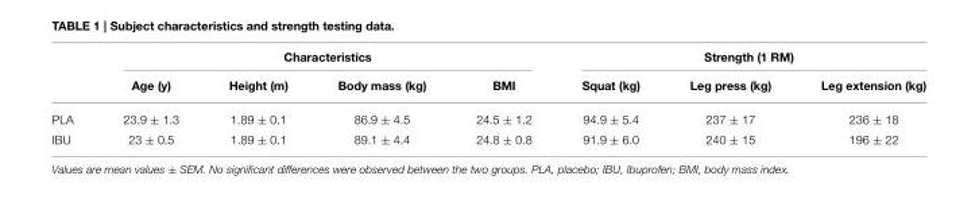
<table><thead><tr><td rowspan="2"></td><td colspan="4">Characteristics</td><td colspan="3">Strength (1 RM)</td></tr><tr><td>Age (y)</td><td>Height (m)</td><td>Body mass (kg)</td><td>BMI</td><td>Squat (kg)</td><td>Leg press (kg)</td><td>Leg extension (kg)</td></tr></thead><tbody><tr><td>PLA</td><td>23.9 ± 1.3</td><td>1.89 ± 0.1</td><td>86.9 ± 4.5</td><td>24.5 ± 1.2</td><td>94.9 ± 5.4</td><td>237 ± 17</td><td>236 ± 18</td></tr><tr><td>IBU</td><td>23 ± 0.5</td><td>1.89 ± 0.1</td><td>89.1 ± 4.4</td><td>24.8 ± 0.8</td><td>91.9 ± 6.0</td><td>240 ± 15</td><td>196 ± 22</td></tr></tbody></table>